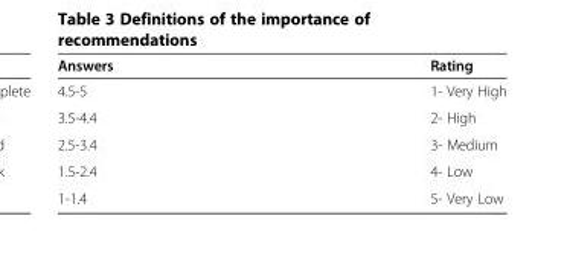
<table><thead><tr><td>Answers</td><td>Rating</td></tr></thead><tbody><tr><td>4.5-5</td><td>1- Very High</td></tr><tr><td>3.5-4.4</td><td>2- High</td></tr><tr><td>2.5-3.4</td><td>3- Medium</td></tr><tr><td>1.5-2.4</td><td>4- Low</td></tr><tr><td>1-1.4</td><td>5- Very Low</td></tr></tbody></table>